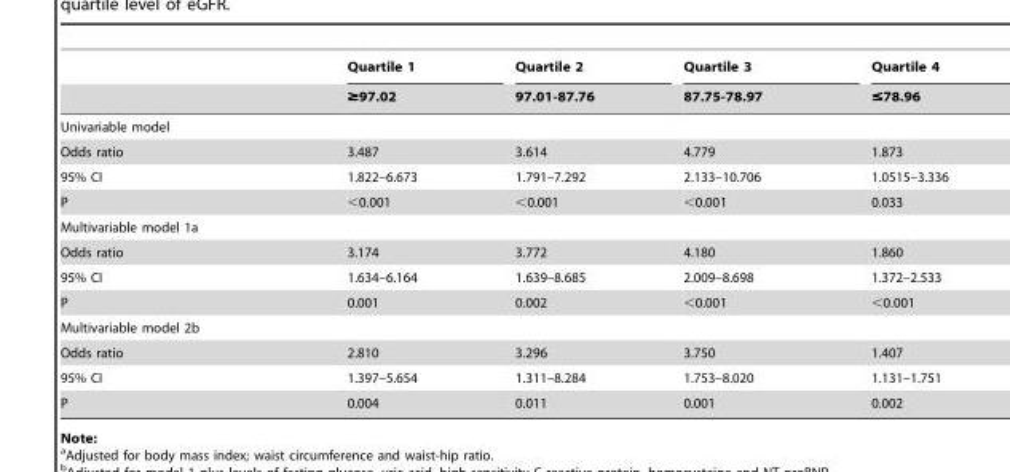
<table><thead><tr><td rowspan="2"></td><td rowspan="2">Quartile 1 ≥97.02</td><td rowspan="2">Quartile 2 97.01-87.76</td><td rowspan="2">Quartile 3 87.75-78.97</td><td rowspan="2">Quartile 4 ≤78.96</td></tr><tr></tr></thead><tbody><tr><td colspan="5">Univariable model</td></tr><tr><td>Odds ratio</td><td>3.487</td><td>3.614</td><td>4.779</td><td>1.873</td></tr><tr><td>95% CI</td><td>1.822–6.673</td><td>1.791–7.292</td><td>2.133–10.706</td><td>1.0515–3.336</td></tr><tr><td>P</td><td>&lt;0.001</td><td>&lt;0.001</td><td>&lt;0.001</td><td>0.033</td></tr><tr><td colspan="5">Multivariable model 1<sup>a</sup></td></tr><tr><td>Odds ratio</td><td>3.174</td><td>3.772</td><td>4.180</td><td>1.860</td></tr><tr><td>95% CI</td><td>1.634–6.164</td><td>1.639–8.685</td><td>2.009–8.698</td><td>1.372–2.533</td></tr><tr><td>P</td><td>0.001</td><td>0.002</td><td>&lt;0.001</td><td>&lt;0.001</td></tr><tr><td colspan="5">Multivariable model 2<sup>b</sup></td></tr><tr><td>Odds ratio</td><td>2.810</td><td>3.296</td><td>3.750</td><td>1.407</td></tr><tr><td>95% CI</td><td>1.397–5.654</td><td>1.311–8.284</td><td>1.753–8.020</td><td>1.131–1.751</td></tr><tr><td>P</td><td>0.004</td><td>0.011</td><td>0.001</td><td>0.002</td></tr></tbody></table>